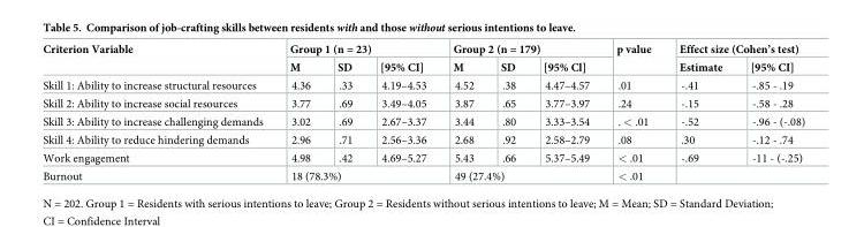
<table><thead><tr><td rowspan="2">Criterion Variable</td><td colspan="3">Group 1 (n = 23)</td><td colspan="3">Group 2 (n = 179)</td><td rowspan="2">p value</td><td colspan="2">Effect size (Cohen’s test)</td></tr><tr><td>M</td><td>SD</td><td>[95% CI]</td><td>M</td><td>SD</td><td>[95% Cl]</td><td>Estimate</td><td>[95% CI]</td></tr></thead><tbody><tr><td>Skill 1: Ability to increase structural resources</td><td>4.36</td><td>.33</td><td>4.19–4.53</td><td>4.52</td><td>.38</td><td>4.47–4.57</td><td>.01</td><td>-.41</td><td>-.85 - .19</td></tr><tr><td>Skill 2: Ability to increase social resources</td><td>3.77</td><td>.69</td><td>3.49–4.05</td><td>3.87</td><td>.65</td><td>3.77–3.97</td><td>.24</td><td>-.15</td><td>-.58 - .28</td></tr><tr><td>Skill 3: Ability to increase challenging demands</td><td>3.02</td><td>.69</td><td>2.67–3.37</td><td>3.44</td><td>.80</td><td>3.33–3.54</td><td>. &lt; .01</td><td>-.52</td><td>-.96 - (-.08)</td></tr><tr><td>Skill 4: Ability to reduce hindering demands</td><td>2.96</td><td>.71</td><td>2.56–3.36</td><td>2.68</td><td>.92</td><td>2.58–2.79</td><td>.08</td><td>.30</td><td>-.12 - .74</td></tr><tr><td>Work engagement</td><td>4.98</td><td>.42</td><td>4.69–5.27</td><td>5.43</td><td>.66</td><td>5.37–5.49</td><td>&lt; .01</td><td>-.69</td><td>-11 - (-.25)</td></tr><tr><td>Burnout</td><td colspan="3">18 (78.3%)</td><td colspan="3">49 (27.4%)</td><td>&lt; .01</td><td colspan="2"></td></tr></tbody></table>